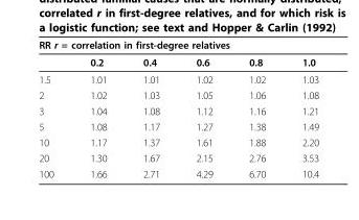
<table><thead><tr><td colspan="6">RR r = correlation in first-degree relatives</td></tr><tr><td></td><td>0.2</td><td>0.4</td><td>0.6</td><td>0.8</td><td>1.0</td></tr></thead><tbody><tr><td>1.5</td><td>1.01</td><td>1.01</td><td>1.02</td><td>1.02</td><td>1.03</td></tr><tr><td>2</td><td>1.02</td><td>1.03</td><td>1.05</td><td>1.06</td><td>1.08</td></tr><tr><td>3</td><td>1.04</td><td>1.08</td><td>1.12</td><td>1.16</td><td>1.21</td></tr><tr><td>5</td><td>1.08</td><td>1.17</td><td>1.27</td><td>1.38</td><td>1.49</td></tr><tr><td>10</td><td>1.17</td><td>1.37</td><td>1.61</td><td>1.88</td><td>2.20</td></tr><tr><td>20</td><td>1.30</td><td>1.67</td><td>2.15</td><td>2.76</td><td>3.53</td></tr><tr><td>100</td><td>1.66</td><td>2.71</td><td>4.29</td><td>6.70</td><td>10.4</td></tr></tbody></table>